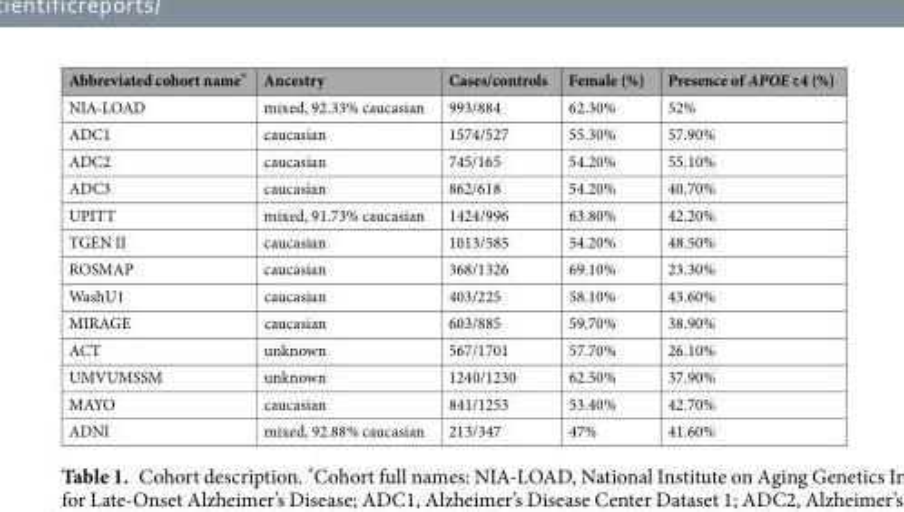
<table><thead><tr><td>Abbreviated cohort name*</td><td>Ancestry</td><td>Cases/controls</td><td>Female (%)</td><td>Presence of APOE ε4 (%)</td></tr></thead><tbody><tr><td>NIA-LOAD</td><td>mixed, 92.33% caucasian</td><td>993/884</td><td>62.30%</td><td>52%</td></tr><tr><td>ADC1</td><td>caucasian</td><td>1574/527</td><td>55.30%</td><td>57.90%</td></tr><tr><td>ADC2</td><td>caucasian</td><td>745/165</td><td>54.20%</td><td>55.10%</td></tr><tr><td>ADC3</td><td>caucasian</td><td>862/618</td><td>54.20%</td><td>40.70%</td></tr><tr><td>UPITT</td><td>mixed, 91.73% caucasian</td><td>1424/996</td><td>63.80%</td><td>42.20%</td></tr><tr><td>TGEN II</td><td>caucasian</td><td>1013/585</td><td>54.20%</td><td>48.50%</td></tr><tr><td>ROSMAP</td><td>caucasian</td><td>368/1326</td><td>69.10%</td><td>23.30%</td></tr><tr><td>WashU1</td><td>caucasian</td><td>403/225</td><td>58.10%</td><td>43.60%</td></tr><tr><td>MIRAGE</td><td>caucasian</td><td>603/885</td><td>59.70%</td><td>38.90%</td></tr><tr><td>ACT</td><td>unknown</td><td>567/1701</td><td>57.70%</td><td>26.10%</td></tr><tr><td>UMVUMSSM</td><td>unknown</td><td>1240/1230</td><td>62.50%</td><td>37.90%</td></tr><tr><td>MAYO</td><td>caucasian</td><td>841/1253</td><td>53.40%</td><td>42.70%</td></tr><tr><td>ADNI</td><td>mixed, 92.88% caucasian</td><td>213/347</td><td>47%</td><td>41.60%</td></tr></tbody></table>